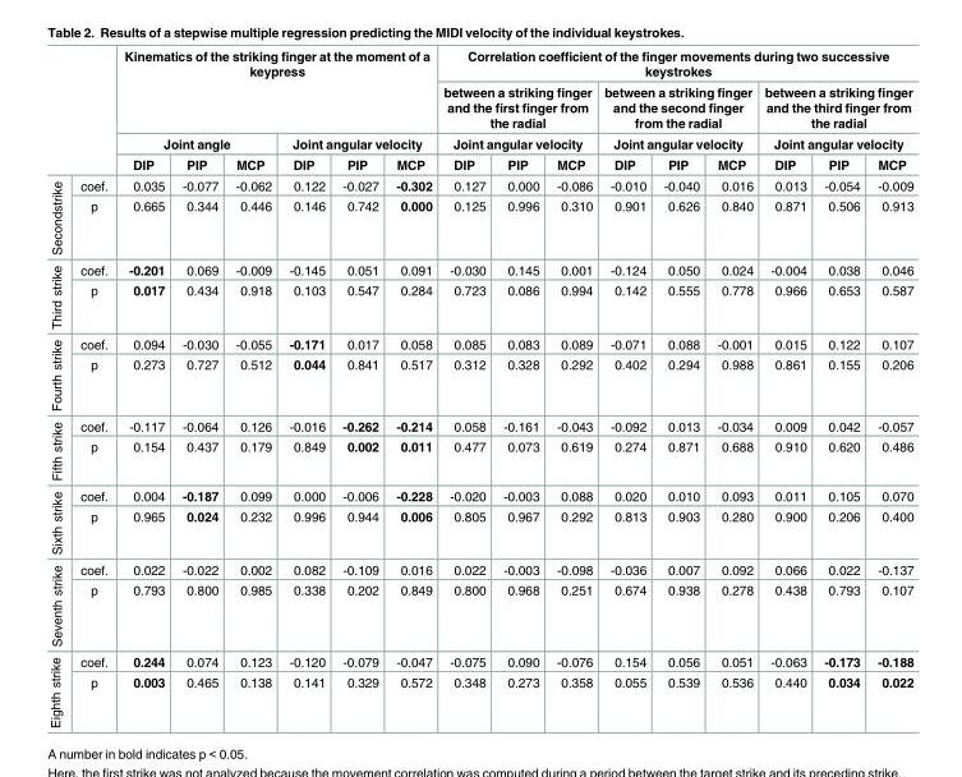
<table><thead><tr><td rowspan="4"></td><td rowspan="4"></td><td rowspan="2" colspan="6">Kinematics of the striking finger at the moment of a keypress</td><td colspan="9">Correlation coefficient of the finger movements during two successive keystrokes</td></tr><tr><td rowspan="2" colspan="3">between a striking finger and the first finger from the radial Joint angular velocity</td><td rowspan="2" colspan="3">between a striking finger and the second finger from the radial Joint angular velocity</td><td rowspan="2" colspan="3">between a striking finger and the third finger from the radial Joint angular velocity</td></tr><tr><td colspan="3">Joint angle</td><td colspan="3">Joint angular velocity</td></tr><tr><td>DIP</td><td>PIP</td><td>MCP</td><td>DIP</td><td>PIP</td><td>MCP</td><td>DIP</td><td>PIP</td><td>MCP</td><td>DIP</td><td>PIP</td><td>MCP</td><td>DIP</td><td>PIP</td><td>MCP</td></tr></thead><tbody><tr><td rowspan="2">Secondstrike</td><td>coef.</td><td>0.035</td><td>-0.077</td><td>-0.062</td><td>0.122</td><td>-0.027</td><td>-0.302</td><td>0.127</td><td>0.000</td><td>-0.086</td><td>-0.010</td><td>-0.040</td><td>0.016</td><td>0.013</td><td>-0.054</td><td>-0.009</td></tr><tr><td>p</td><td>0.665</td><td>0.344</td><td>0.446</td><td>0.146</td><td>0.742</td><td>0.000</td><td>0.125</td><td>0.996</td><td>0.310</td><td>0.901</td><td>0.626</td><td>0.840</td><td>0.871</td><td>0.506</td><td>0.913</td></tr><tr><td rowspan="2">Third strike</td><td>coef.</td><td>-0.201</td><td>0.069</td><td>-0.009</td><td>-0.145</td><td>0.051</td><td>0.091</td><td>-0.030</td><td>0.145</td><td>0.001</td><td>-0.124</td><td>0.050</td><td>0.024</td><td>-0.004</td><td>0.038</td><td>0.046</td></tr><tr><td>p</td><td>0.017</td><td>0.434</td><td>0.918</td><td>0.103</td><td>0.547</td><td>0.284</td><td>0.723</td><td>0.086</td><td>0.994</td><td>0.142</td><td>0.555</td><td>0.778</td><td>0.966</td><td>0.653</td><td>0.587</td></tr><tr><td rowspan="2">Fourth strike</td><td>coef.</td><td>0.094</td><td>-0.030</td><td>-0.055</td><td>-0.171</td><td>0.017</td><td>0.058</td><td>0.085</td><td>0.083</td><td>0.089</td><td>-0.071</td><td>0.088</td><td>-0.001</td><td>0.015</td><td>0.122</td><td>0.107</td></tr><tr><td>p</td><td>0.273</td><td>0.727</td><td>0.512</td><td>0.044</td><td>0.841</td><td>0.517</td><td>0.312</td><td>0.328</td><td>0.292</td><td>0.402</td><td>0.294</td><td>0.988</td><td>0.861</td><td>0.155</td><td>0.206</td></tr><tr><td rowspan="2">Fifth strike</td><td>coef.</td><td>-0.117</td><td>-0.064</td><td>0.126</td><td>-0.016</td><td>-0.262</td><td>-0.214</td><td>0.058</td><td>-0.161</td><td>-0.043</td><td>-0.092</td><td>0.013</td><td>-0.034</td><td>0.009</td><td>0.042</td><td>-0.057</td></tr><tr><td>p</td><td>0.154</td><td>0.437</td><td>0.179</td><td>0.849</td><td>0.002</td><td>0.011</td><td>0.477</td><td>0.073</td><td>0.619</td><td>0.274</td><td>0.871</td><td>0.688</td><td>0.910</td><td>0.620</td><td>0.486</td></tr><tr><td rowspan="2">Sixth strike</td><td>coef.</td><td>0.004</td><td>-0.187</td><td>0.099</td><td>0.000</td><td>-0.006</td><td>-0.228</td><td>-0.020</td><td>-0.003</td><td>0.088</td><td>0.020</td><td>0.010</td><td>0.093</td><td>0.011</td><td>0.105</td><td>0.070</td></tr><tr><td>p</td><td>0.965</td><td>0.024</td><td>0.232</td><td>0.996</td><td>0.944</td><td>0.006</td><td>0.805</td><td>0.967</td><td>0.292</td><td>0.813</td><td>0.903</td><td>0.280</td><td>0.900</td><td>0.206</td><td>0.400</td></tr><tr><td rowspan="2">Seventh strike</td><td>coef.</td><td>0.022</td><td>-0.022</td><td>0.002</td><td>0.082</td><td>-0.109</td><td>0.016</td><td>0.022</td><td>-0.003</td><td>-0.098</td><td>-0.036</td><td>0.007</td><td>0.092</td><td>0.066</td><td>0.022</td><td>-0.137</td></tr><tr><td>p</td><td>0.793</td><td>0.800</td><td>0.985</td><td>0.338</td><td>0.202</td><td>0.849</td><td>0.800</td><td>0.968</td><td>0.251</td><td>0.674</td><td>0.938</td><td>0.278</td><td>0.438</td><td>0.793</td><td>0.107</td></tr><tr><td rowspan="2">Eighth strike</td><td>coef.</td><td>0.244</td><td>0.074</td><td>0.123</td><td>-0.120</td><td>-0.079</td><td>-0.047</td><td>-0.075</td><td>0.090</td><td>-0.076</td><td>0.154</td><td>0.056</td><td>0.051</td><td>-0.063</td><td>-0.173</td><td>-0.188</td></tr><tr><td>p</td><td>0.003</td><td>0.465</td><td>0.138</td><td>0.141</td><td>0.329</td><td>0.572</td><td>0.348</td><td>0.273</td><td>0.358</td><td>0.055</td><td>0.539</td><td>0.536</td><td>0.440</td><td>0.034</td><td>0.022</td></tr></tbody></table>